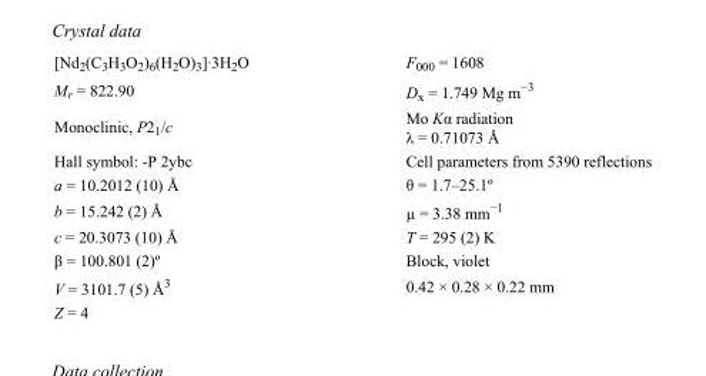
<table><tbody><tr><td>[Nd<sub>2</sub>(C<sub>3</sub>H<sub>3</sub>O<sub>2</sub>)<sub>6</sub>(H<sub>2</sub>O)<sub>3</sub>]·3H<sub>2</sub>O</td><td>F<sub>000</sub> = 1608</td></tr><tr><td>M<sub>r</sub> = 822.90</td><td>D<sub>x</sub> = 1.749 Mg m<sup>−3</sup></td></tr><tr><td>Monoclinic, P2<sub>1</sub>/c</td><td>Mo Kα radiation λ = 0.71073 Å</td></tr><tr><td>Hall symbol: -P 2ybc</td><td>Cell parameters from 5390 reflections</td></tr><tr><td>a = 10.2012 (10) Å</td><td>θ = 1.7–25.1º</td></tr><tr><td>b = 15.242 (2) Å</td><td>µ = 3.38 mm<sup>−1</sup></td></tr><tr><td>c = 20.3073 (10) Å</td><td>T = 295 (2) K</td></tr><tr><td>β = 100.801 (2)º</td><td>Block, violet</td></tr><tr><td>V = 3101.7 (5) Å<sup>3</sup></td><td>0.42 × 0.28 × 0.22 mm</td></tr><tr><td>Z = 4</td><td></td></tr></tbody></table>